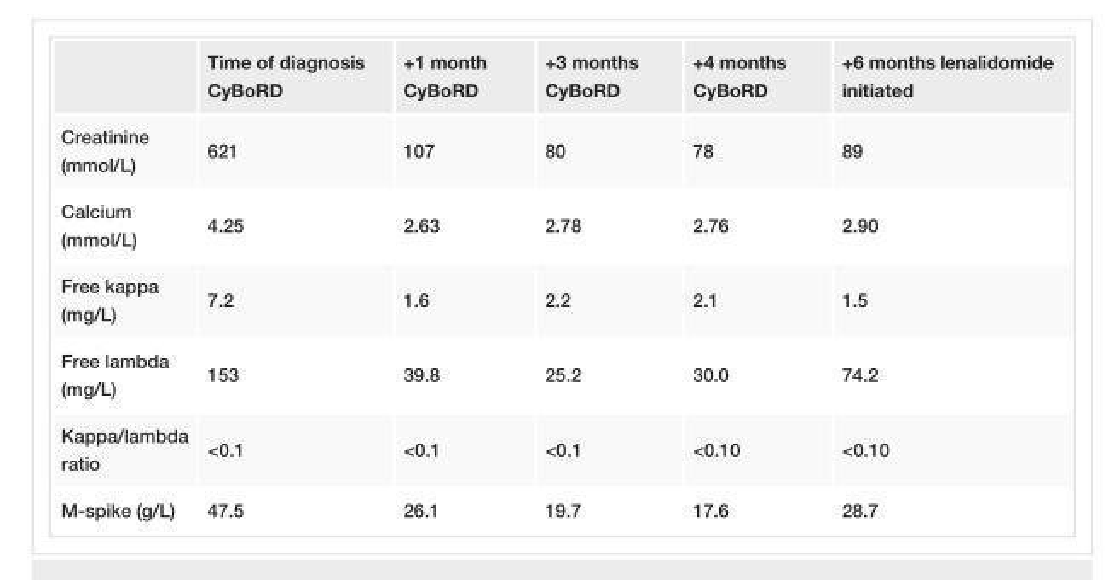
<table><thead><tr><td></td><td>Time of diagnosis CyBoRD</td><td>+1 month CyBoRD</td><td>+3 months CyBoRD</td><td>+4 months CyBoRD</td><td>+6 months lenalidomide initiated</td></tr></thead><tbody><tr><td>Creatinine (mmol/L)</td><td>621</td><td>107</td><td>80</td><td>78</td><td>89</td></tr><tr><td>Calcium (mmol/L)</td><td>4.25</td><td>2.63</td><td>2.78</td><td>2.76</td><td>2.90</td></tr><tr><td>Free kappa (mg/L)</td><td>7.2</td><td>1.6</td><td>2.2</td><td>2.1</td><td>1.5</td></tr><tr><td>Free lambda (mg/L)</td><td>153</td><td>39.8</td><td>25.2</td><td>30.0</td><td>74.2</td></tr><tr><td>Kappa/lambda ratio</td><td>&lt;0.1</td><td>&lt;0.1</td><td>&lt;0.1</td><td>&lt;0.10</td><td>&lt;0.10</td></tr><tr><td>M-spike (g/L)</td><td>47.5</td><td>26.1</td><td>19.7</td><td>17.6</td><td>28.7</td></tr></tbody></table>